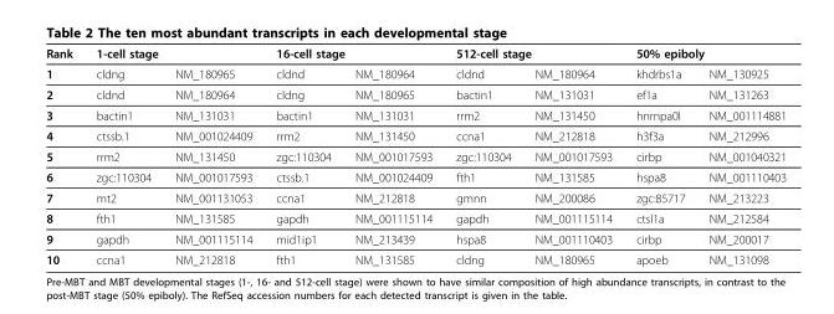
<table><thead><tr><td rowspan="2">Rank 1</td><td colspan="2">1-cell stage</td><td colspan="2">16-cell stage</td><td colspan="2">512-cell stage</td><td colspan="2">50% epiboly</td></tr><tr><td>cldng</td><td>NM_180965</td><td>cldnd</td><td>NM_180964</td><td>cldnd</td><td>NM_180964</td><td>khdrbs1a</td><td>NM_130925</td></tr></thead><tbody><tr><td>2</td><td>cldnd</td><td>NM_180964</td><td>cldng</td><td>NM_180965</td><td>bactin1</td><td>NM_131031</td><td>ef1a</td><td>NM_131263</td></tr><tr><td>3</td><td>bactin1</td><td>NM_131031</td><td>bactin1</td><td>NM_131031</td><td>rrm2</td><td>NM_131450</td><td>hnrnpa0l</td><td>NM_001114881</td></tr><tr><td>4</td><td>ctssb.1</td><td>NM_001024409</td><td>rrm2</td><td>NM_131450</td><td>ccna1</td><td>NM_212818</td><td>h3f3a</td><td>NM_212996</td></tr><tr><td>5</td><td>rrm2</td><td>NM_131450</td><td>zgc:110304</td><td>NM_001017593</td><td>zgc:110304</td><td>NM_001017593</td><td>cirbp</td><td>NM_001040321</td></tr><tr><td>6</td><td>zgc:110304</td><td>NM_001017593</td><td>ctssb.1</td><td>NM_001024409</td><td>fth1</td><td>NM_131585</td><td>hspa8</td><td>NM_001110403</td></tr><tr><td>7</td><td>mt2</td><td>NM_001131053</td><td>ccna1</td><td>NM_212818</td><td>gmnn</td><td>NM_200086</td><td>zgc:85717</td><td>NM_213223</td></tr><tr><td>8</td><td>fth1</td><td>NM_131585</td><td>gapdh</td><td>NM_001115114</td><td>gapdh</td><td>NM_001115114</td><td>ctsl1a</td><td>NM_212584</td></tr><tr><td>9</td><td>gapdh</td><td>NM_001115114</td><td>mid1ip1</td><td>NM_213439</td><td>hspa8</td><td>NM_001110403</td><td>cirbp</td><td>NM_200017</td></tr><tr><td>10</td><td>ccna1</td><td>NM_212818</td><td>fth1</td><td>NM_131585</td><td>cldng</td><td>NM_180965</td><td>apoeb</td><td>NM_131098</td></tr></tbody></table>